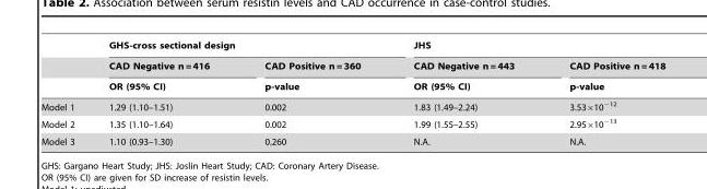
<table><thead><tr><td rowspan="3"></td><td colspan="2">GHS-cross sectional design</td><td colspan="2">JHS</td></tr><tr><td rowspan="2">CAD Negative n = 416 OR (95% CI)</td><td rowspan="2">CAD Positive n = 360 p-value</td><td rowspan="2">CAD Negative n = 443 OR (95% CI)</td><td rowspan="2">CAD Positive n = 418 p-value</td></tr><tr></tr></thead><tbody><tr><td>Model 1</td><td>1.29 (1.10–1.51)</td><td>0.002</td><td>1.83 (1.49–2.24)</td><td>3.53×10<sup>−12</sup></td></tr><tr><td>Model 2</td><td>1.35 (1.10–1.64)</td><td>0.002</td><td>1.99 (1.55–2.55)</td><td>2.95×10<sup>−13</sup></td></tr><tr><td>Model 3</td><td>1.10 (0.93–1.30)</td><td>0.260</td><td>N.A.</td><td>N.A.</td></tr></tbody></table>